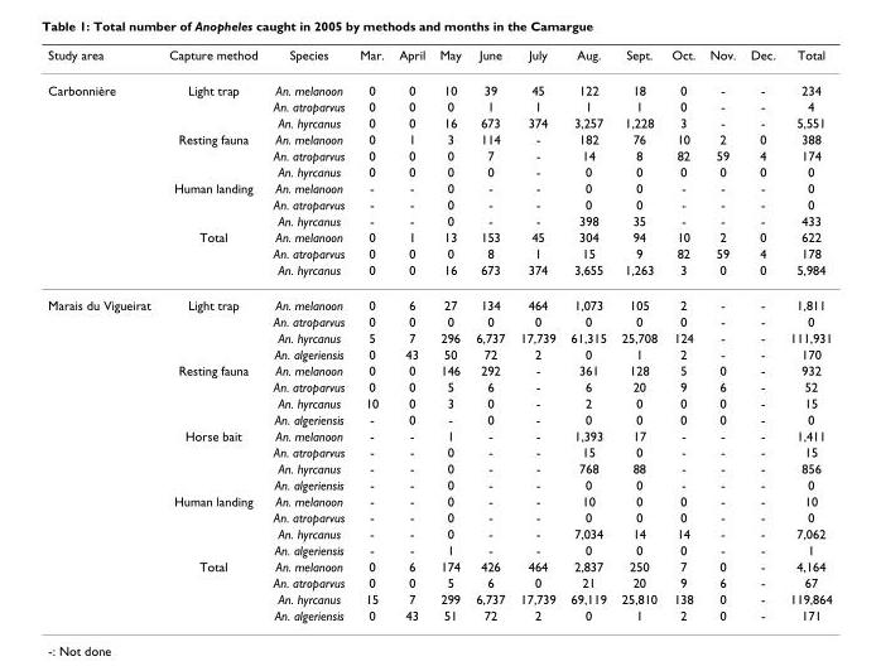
<table><thead><tr><td>Study area</td><td>Capture method</td><td>Species</td><td>Mar.</td><td>April</td><td>May</td><td>June</td><td>July</td><td>Aug.</td><td>Sept.</td><td>Oct.</td><td>Nov.</td><td>Dec.</td><td>Total</td></tr></thead><tbody><tr><td rowspan="12">Carbonnière</td><td>Light trap</td><td>An. melanoon</td><td>0</td><td>0</td><td>10</td><td>39</td><td>45</td><td>122</td><td>18</td><td>0</td><td>-</td><td>-</td><td>234</td></tr><tr><td></td><td>An. atroparvus</td><td>0</td><td>0</td><td>0</td><td>1</td><td>1</td><td>1</td><td>1</td><td>0</td><td>-</td><td>-</td><td>4</td></tr><tr><td></td><td>An. hyrcanus</td><td>0</td><td>0</td><td>16</td><td>673</td><td>374</td><td>3,257</td><td>1,228</td><td>3</td><td>-</td><td>-</td><td>5,551</td></tr><tr><td>Resting fauna</td><td>An. melanoon</td><td>0</td><td>1</td><td>3</td><td>114</td><td>-</td><td>182</td><td>76</td><td>10</td><td>2</td><td>0</td><td>388</td></tr><tr><td></td><td>An. atroparvus</td><td>0</td><td>0</td><td>0</td><td>7</td><td>-</td><td>14</td><td>8</td><td>82</td><td>59</td><td>4</td><td>174</td></tr><tr><td></td><td>An. hyrcanus</td><td>0</td><td>0</td><td>0</td><td>0</td><td>-</td><td>0</td><td>0</td><td>0</td><td>0</td><td>0</td><td>0</td></tr><tr><td>Human landing</td><td>An. melanoon</td><td>-</td><td>-</td><td>0</td><td>-</td><td>-</td><td>0</td><td>0</td><td>-</td><td>-</td><td>-</td><td>0</td></tr><tr><td></td><td>An. atroparvus</td><td>-</td><td>-</td><td>0</td><td>-</td><td>-</td><td>0</td><td>0</td><td>-</td><td>-</td><td>-</td><td>0</td></tr><tr><td></td><td>An. hyrcanus</td><td>-</td><td>-</td><td>0</td><td>-</td><td>-</td><td>398</td><td>35</td><td>-</td><td>-</td><td>-</td><td>433</td></tr><tr><td>Total</td><td>An. melanoon</td><td>0</td><td>1</td><td>13</td><td>153</td><td>45</td><td>304</td><td>94</td><td>10</td><td>2</td><td>0</td><td>622</td></tr><tr><td></td><td>An. atroparvus</td><td>0</td><td>0</td><td>0</td><td>8</td><td>1</td><td>15</td><td>9</td><td>82</td><td>59</td><td>4</td><td>178</td></tr><tr><td></td><td>An. hyrcanus</td><td>0</td><td>0</td><td>16</td><td>673</td><td>374</td><td>3,655</td><td>1,263</td><td>3</td><td>0</td><td>0</td><td>5,984</td></tr><tr><td rowspan="20">Marais du Vigueirat</td><td>Light trap</td><td>An. melanoon</td><td>0</td><td>6</td><td>27</td><td>134</td><td>464</td><td>1,073</td><td>105</td><td>2</td><td>-</td><td>-</td><td>1,811</td></tr><tr><td></td><td>An. atroparvus</td><td>0</td><td>0</td><td>0</td><td>0</td><td>0</td><td>0</td><td>0</td><td>0</td><td>-</td><td>-</td><td>0</td></tr><tr><td></td><td>An. hyrcanus</td><td>5</td><td>7</td><td>296</td><td>6,737</td><td>17,739</td><td>61,315</td><td>25,708</td><td>124</td><td>-</td><td>-</td><td>111,931</td></tr><tr><td></td><td>An. algeriensis</td><td>0</td><td>43</td><td>50</td><td>72</td><td>2</td><td>0</td><td>1</td><td>2</td><td>-</td><td>-</td><td>170</td></tr><tr><td>Resting fauna</td><td>An. melanoon</td><td>0</td><td>0</td><td>146</td><td>292</td><td>-</td><td>361</td><td>128</td><td>5</td><td>0</td><td>-</td><td>932</td></tr><tr><td></td><td>An. atroparvus</td><td>0</td><td>0</td><td>5</td><td>6</td><td>-</td><td>6</td><td>20</td><td>9</td><td>6</td><td>-</td><td>52</td></tr><tr><td></td><td>An. hyrcanus</td><td>10</td><td>0</td><td>3</td><td>0</td><td>-</td><td>2</td><td>0</td><td>0</td><td>0</td><td>-</td><td>15</td></tr><tr><td></td><td>An. algeriensis</td><td>-</td><td>0</td><td>-</td><td>0</td><td>-</td><td>0</td><td>0</td><td>0</td><td>0</td><td>-</td><td>0</td></tr><tr><td>Horse bait</td><td>An. melanoon</td><td>-</td><td>-</td><td>1</td><td>-</td><td>-</td><td>1,393</td><td>17</td><td>-</td><td>-</td><td>-</td><td>1,411</td></tr><tr><td></td><td>An. atroparvus</td><td>-</td><td>-</td><td>0</td><td>-</td><td>-</td><td>15</td><td>0</td><td>-</td><td>-</td><td>-</td><td>15</td></tr><tr><td></td><td>An. hyrcanus</td><td>-</td><td>-</td><td>0</td><td>-</td><td>-</td><td>768</td><td>88</td><td>-</td><td>-</td><td>-</td><td>856</td></tr><tr><td></td><td>An. algeriensis</td><td>-</td><td>-</td><td>0</td><td>-</td><td>-</td><td>0</td><td>0</td><td>-</td><td>-</td><td>-</td><td>0</td></tr><tr><td>Human landing</td><td>An. melanoon</td><td>-</td><td>-</td><td>0</td><td>-</td><td>-</td><td>10</td><td>0</td><td>0</td><td>-</td><td>-</td><td>10</td></tr><tr><td></td><td>An. atroparvus</td><td>-</td><td>-</td><td>0</td><td>-</td><td>-</td><td>0</td><td>0</td><td>0</td><td>-</td><td>-</td><td>0</td></tr><tr><td></td><td>An. hyrcanus</td><td>-</td><td>-</td><td>0</td><td>-</td><td>-</td><td>7,034</td><td>14</td><td>14</td><td>-</td><td>-</td><td>7,062</td></tr><tr><td></td><td>An. algeriensis</td><td>-</td><td>-</td><td>1</td><td>-</td><td>-</td><td>0</td><td>0</td><td>0</td><td>-</td><td>-</td><td>1</td></tr><tr><td>Total</td><td>An. melanoon</td><td>0</td><td>6</td><td>174</td><td>426</td><td>464</td><td>2,837</td><td>250</td><td>7</td><td>0</td><td>-</td><td>4,164</td></tr><tr><td></td><td>An. atroparvus</td><td>0</td><td>0</td><td>5</td><td>6</td><td>0</td><td>21</td><td>20</td><td>9</td><td>6</td><td>-</td><td>67</td></tr><tr><td></td><td>An. hyrcanus</td><td>15</td><td>7</td><td>299</td><td>6,737</td><td>17,739</td><td>69,119</td><td>25,810</td><td>138</td><td>0</td><td>-</td><td>119,864</td></tr><tr><td></td><td>An. algeriensis</td><td>0</td><td>43</td><td>51</td><td>72</td><td>2</td><td>0</td><td>1</td><td>2</td><td>0</td><td>-</td><td>171</td></tr></tbody></table>